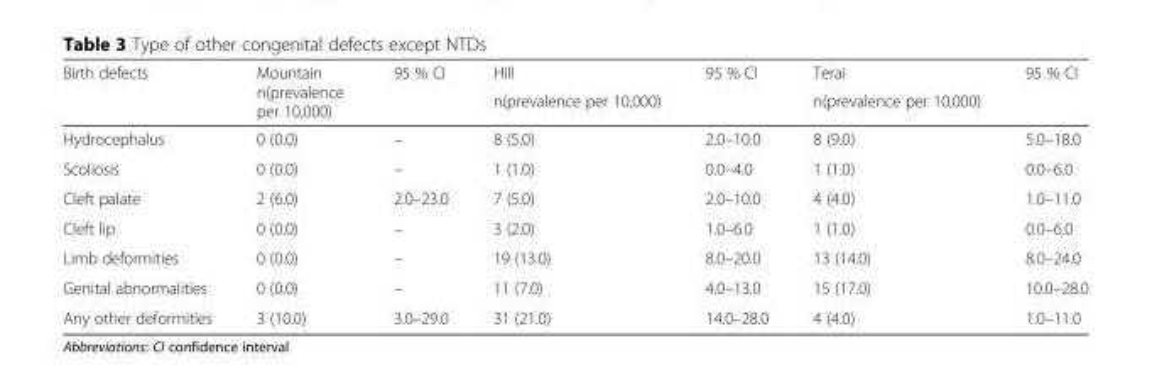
<table><thead><tr><td rowspan="2">Birth defects</td><td rowspan="2">Mountain n(prevalence per 10,000)</td><td rowspan="2">95 % CI</td><td rowspan="2">Hill n(prevalence per 10,000)</td><td rowspan="2">95 % CI</td><td rowspan="2">Terai n(prevalence per 10,000)</td><td rowspan="2">95 % CI</td></tr><tr></tr></thead><tbody><tr><td>Hydrocephalus</td><td>0 (0.0)</td><td>–</td><td>8 (5.0)</td><td>2.0–10.0</td><td>8 (9.0)</td><td>5.0–18.0</td></tr><tr><td>Scoliosis</td><td>0 (0.0)</td><td>–</td><td>1 (1.0)</td><td>0.0–4.0</td><td>1 (1.0)</td><td>0.0–6.0</td></tr><tr><td>Cleft palate</td><td>2 (6.0)</td><td>2.0–23.0</td><td>7 (5.0)</td><td>2.0–10.0</td><td>4 (4.0)</td><td>1.0–11.0</td></tr><tr><td>Cleft lip</td><td>0 (0.0)</td><td>–</td><td>3 (2.0)</td><td>1.0–6.0</td><td>1 (1.0)</td><td>0.0–6.0</td></tr><tr><td>Limb deformities</td><td>0 (0.0)</td><td>–</td><td>19 (13.0)</td><td>8.0–20.0</td><td>13 (14.0)</td><td>8.0–24.0</td></tr><tr><td>Genital abnormalities</td><td>0 (0.0)</td><td>–</td><td>11 (7.0)</td><td>4.0–13.0</td><td>15 (17.0)</td><td>10.0–28.0</td></tr><tr><td>Any other deformities</td><td>3 (10.0)</td><td>3.0–29.0</td><td>31 (21.0)</td><td>14.0–28.0</td><td>4 (4.0)</td><td>1.0–11.0</td></tr></tbody></table>